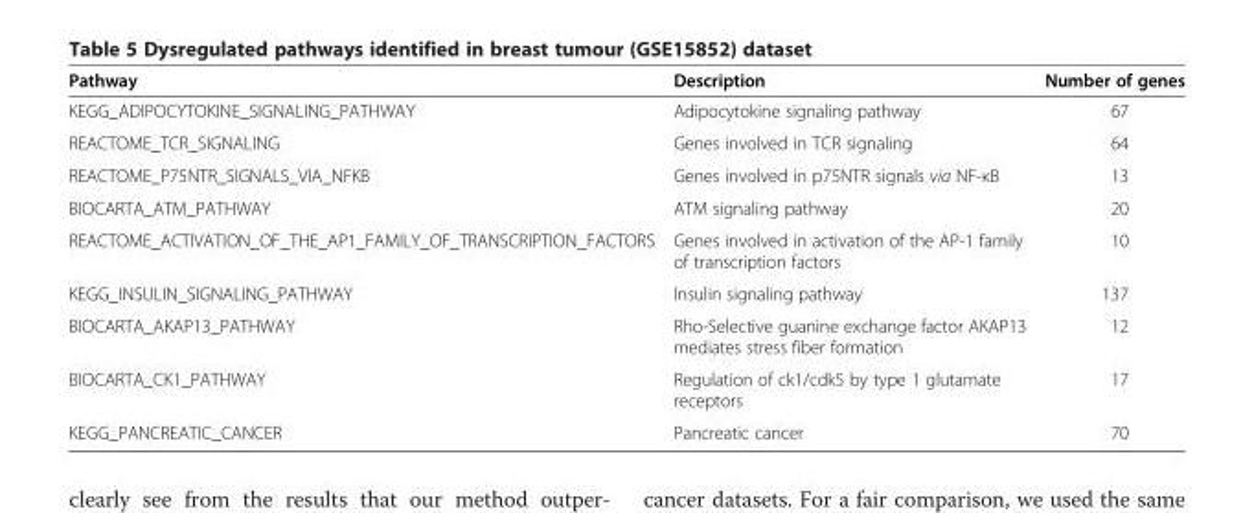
<table><thead><tr><td>Pathway</td><td>Description</td><td>Number of genes</td></tr></thead><tbody><tr><td>KEGG_ADIPOCYTOKINE_SIGNALING_PATHWAY</td><td>Adipocytokine signaling pathway</td><td>67</td></tr><tr><td>REACTOME_TCR_SIGNALING</td><td>Genes involved in TCR signaling</td><td>64</td></tr><tr><td>REACTOME_P75NTR_SIGNALS_VIA_NFKB</td><td>Genes involved in p75NTR signals via NF-κB</td><td>13</td></tr><tr><td>BIOCARTA_ATM_PATHWAY</td><td>ATM signaling pathway</td><td>20</td></tr><tr><td>REACTOME_ACTIVATION_OF_THE_AP1_FAMILY_OF_TRANSCRIPTION_FACTORS</td><td>Genes involved in activation of the AP-1 family of transcription factors</td><td>10</td></tr><tr><td>KEGG_INSULIN_SIGNALING_PATHWAY</td><td>Insulin signaling pathway</td><td>137</td></tr><tr><td>BIOCARTA_AKAP13_PATHWAY</td><td>Rho-Selective guanine exchange factor AKAP13 mediates stress fiber formation</td><td>12</td></tr><tr><td>BIOCARTA_CK1_PATHWAY</td><td>Regulation of ck1/cdk5 by type 1 glutamate receptors</td><td>17</td></tr><tr><td>KEGG_PANCREATIC_CANCER</td><td>Pancreatic cancer</td><td>70</td></tr></tbody></table>